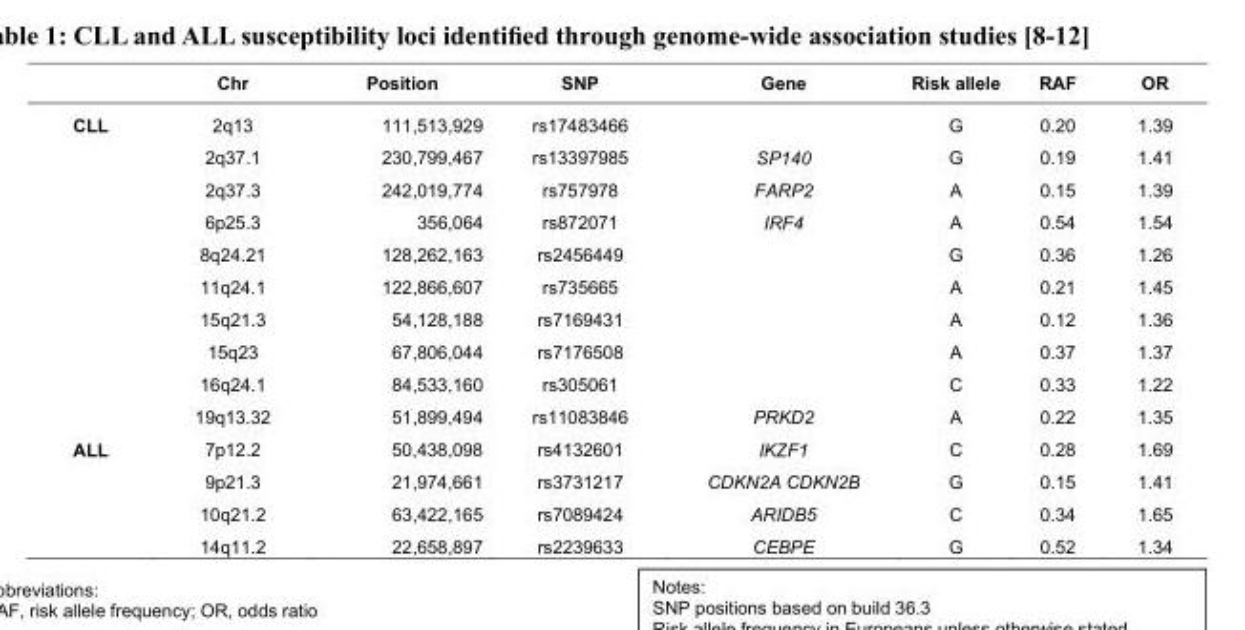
<table><thead><tr><td></td><td>Chr</td><td>Position</td><td>SNP</td><td>Gene</td><td>Risk allele</td><td>RAF</td><td>OR</td></tr></thead><tbody><tr><td rowspan="10">CLL</td><td>2q13</td><td>111,513,929</td><td>rs17483466</td><td></td><td>G</td><td>0.20</td><td>1.39</td></tr><tr><td>2q37.1</td><td>230,799,467</td><td>rs13397985</td><td>SP140</td><td>G</td><td>0.19</td><td>1.41</td></tr><tr><td>2q37.3</td><td>242,019,774</td><td>rs757978</td><td>FARP2</td><td>A</td><td>0.15</td><td>1.39</td></tr><tr><td>6p25.3</td><td>356,064</td><td>rs872071</td><td>IRF4</td><td>A</td><td>0.54</td><td>1.54</td></tr><tr><td>8q24.21</td><td>128,262,163</td><td>rs2456449</td><td></td><td>G</td><td>0.36</td><td>1.26</td></tr><tr><td>11q24.1</td><td>122,866,607</td><td>rs735665</td><td></td><td>A</td><td>0.21</td><td>1.45</td></tr><tr><td>15q21.3</td><td>54,128,188</td><td>rs7169431</td><td></td><td>A</td><td>0.12</td><td>1.36</td></tr><tr><td>15q23</td><td>67,806,044</td><td>rs7176508</td><td></td><td>A</td><td>0.37</td><td>1.37</td></tr><tr><td>16q24.1</td><td>84,533,160</td><td>rs305061</td><td></td><td>C</td><td>0.33</td><td>1.22</td></tr><tr><td>19q13.32</td><td>51,899,494</td><td>rs11083846</td><td>PRKD2</td><td>A</td><td>0.22</td><td>1.35</td></tr><tr><td rowspan="4">ALL</td><td>7p12.2</td><td>50,438,098</td><td>rs4132601</td><td>IKZF1</td><td>C</td><td>0.28</td><td>1.69</td></tr><tr><td>9p21.3</td><td>21,974,661</td><td>rs3731217</td><td>CDKN2A CDKN2B</td><td>G</td><td>0.15</td><td>1.41</td></tr><tr><td>10q21.2</td><td>63,422,165</td><td>rs7089424</td><td>ARIDB5</td><td>C</td><td>0.34</td><td>1.65</td></tr><tr><td>14q11.2</td><td>22,658,897</td><td>rs2239633</td><td>CEBPE</td><td>G</td><td>0.52</td><td>1.34</td></tr></tbody></table>